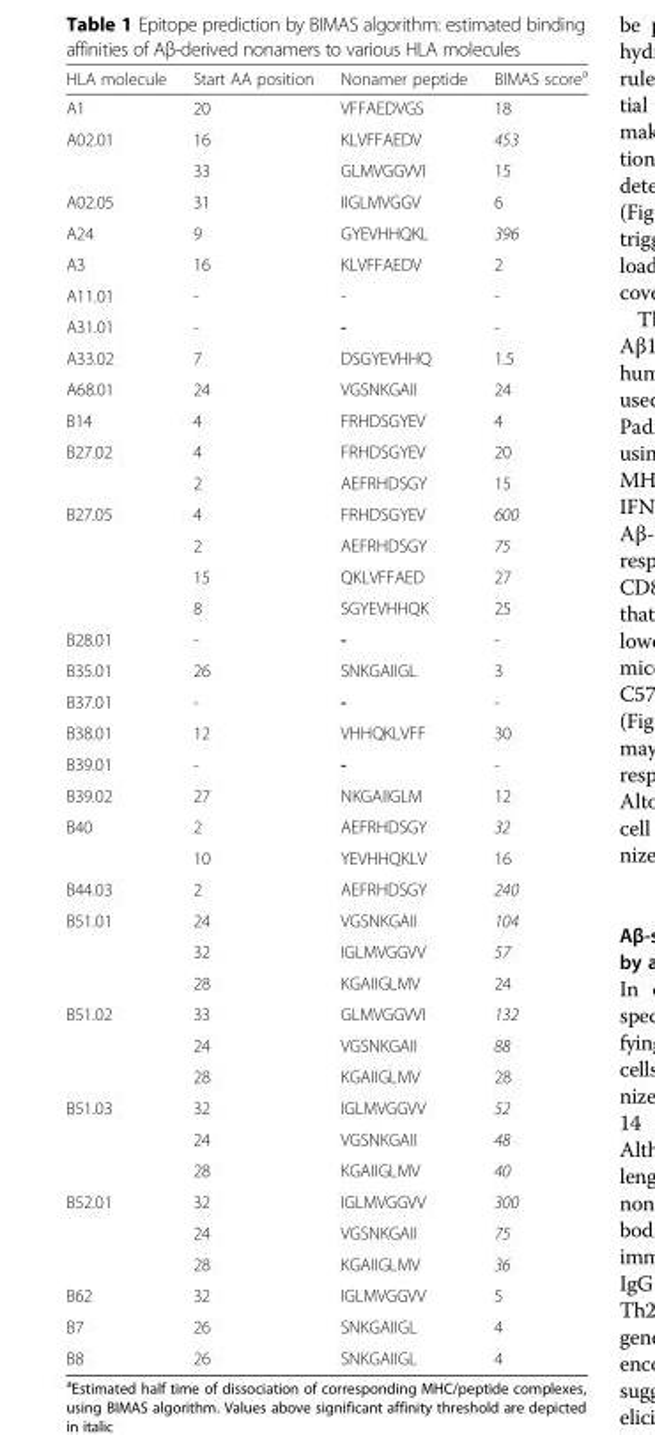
<table><thead><tr><td>HLA molecule</td><td>Start AA position</td><td>Nonamer peptide</td><td>BIMAS score<sup>a</sup></td></tr></thead><tbody><tr><td>A1</td><td>20</td><td>VFFAEDVGS</td><td>18</td></tr><tr><td rowspan="2">A02.01</td><td>16</td><td>KLVFFAEDV</td><td>453</td></tr><tr><td>33</td><td>GLMVGGVVI</td><td>15</td></tr><tr><td>A02.05</td><td>31</td><td>IIGLMVGGV</td><td>6</td></tr><tr><td>A24</td><td>9</td><td>GYEVHHQKL</td><td>396</td></tr><tr><td>A3</td><td>16</td><td>KLVFFAEDV</td><td>2</td></tr><tr><td>A11.01</td><td>-</td><td>-</td><td>-</td></tr><tr><td>A31.01</td><td>-</td><td>-</td><td>-</td></tr><tr><td>A33.02</td><td>7</td><td>DSGYEVHHQ</td><td>1.5</td></tr><tr><td>A68.01</td><td>24</td><td>VGSNKGAII</td><td>24</td></tr><tr><td>B14</td><td>4</td><td>FRHDSGYEV</td><td>4</td></tr><tr><td rowspan="2">B27.02</td><td>4</td><td>FRHDSGYEV</td><td>20</td></tr><tr><td>2</td><td>AEFRHDSGY</td><td>15</td></tr><tr><td rowspan="4">B27.05</td><td>4</td><td>FRHDSGYEV</td><td>600</td></tr><tr><td>2</td><td>AEFRHDSGY</td><td>75</td></tr><tr><td>15</td><td>QKLVFFAED</td><td>27</td></tr><tr><td>8</td><td>SGYEVHHQK</td><td>25</td></tr><tr><td>B28.01</td><td>-</td><td>-</td><td>-</td></tr><tr><td>B35.01</td><td>26</td><td>SNKGAIIGL</td><td>3</td></tr><tr><td>B37.01</td><td>-</td><td>-</td><td>-</td></tr><tr><td>B38.01</td><td>12</td><td>VHHQKLVFF</td><td>30</td></tr><tr><td>B39.01</td><td>-</td><td>-</td><td>-</td></tr><tr><td>B39.02</td><td>27</td><td>NKGAIIGLM</td><td>12</td></tr><tr><td rowspan="2">B40</td><td>2</td><td>AEFRHDSGY</td><td>32</td></tr><tr><td>10</td><td>YEVHHQKLV</td><td>16</td></tr><tr><td>B44.03</td><td>2</td><td>AEFRHDSGY</td><td>240</td></tr><tr><td rowspan="3">B51.01</td><td>24</td><td>VGSNKGAII</td><td>104</td></tr><tr><td>32</td><td>IGLMVGGVV</td><td>57</td></tr><tr><td>28</td><td>KGAIIGLMV</td><td>24</td></tr><tr><td rowspan="3">B51.02</td><td>33</td><td>GLMVGGVVI</td><td>132</td></tr><tr><td>24</td><td>VGSNKGAII</td><td>88</td></tr><tr><td>28</td><td>KGAIIGLMV</td><td>28</td></tr><tr><td rowspan="3">B51.03</td><td>32</td><td>IGLMVGGVV</td><td>52</td></tr><tr><td>24</td><td>VGSNKGAII</td><td>48</td></tr><tr><td>28</td><td>KGAIIGLMV</td><td>40</td></tr><tr><td rowspan="3">B52.01</td><td>32</td><td>IGLMVGGVV</td><td>300</td></tr><tr><td>24</td><td>VGSNKGAII</td><td>75</td></tr><tr><td>28</td><td>KGAIIGLMV</td><td>36</td></tr><tr><td>B62</td><td>32</td><td>IGLMVGGVV</td><td>5</td></tr><tr><td>B7</td><td>26</td><td>SNKGAIIGL</td><td>4</td></tr><tr><td>B8</td><td>26</td><td>SNKGAIIGL</td><td>4</td></tr></tbody></table>